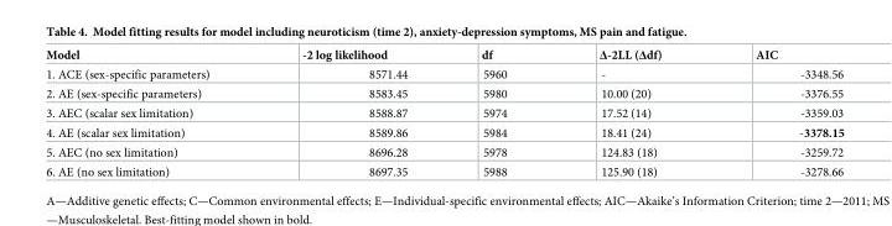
<table><thead><tr><td>Model</td><td>-2 log likelihood</td><td>df</td><td>Δ-2LL (Δdf)</td><td>AIC</td></tr></thead><tbody><tr><td>1. ACE (sex-specific parameters)</td><td>8571.44</td><td>5960</td><td>-</td><td>-3348.56</td></tr><tr><td>2. AE (sex-specific parameters)</td><td>8583.45</td><td>5980</td><td>10.00 (20)</td><td>-3376.55</td></tr><tr><td>3. AEC (scalar sex limitation)</td><td>8588.87</td><td>5974</td><td>17.52 (14)</td><td>-3359.03</td></tr><tr><td>4. AE (scalar sex limitation)</td><td>8589.86</td><td>5984</td><td>18.41 (24)</td><td>-3378.15</td></tr><tr><td>5. AEC (no sex limitation)</td><td>8696.28</td><td>5978</td><td>124.83 (18)</td><td>-3259.72</td></tr><tr><td>6. AE (no sex limitation)</td><td>8697.35</td><td>5988</td><td>125.90 (18)</td><td>-3278.66</td></tr></tbody></table>